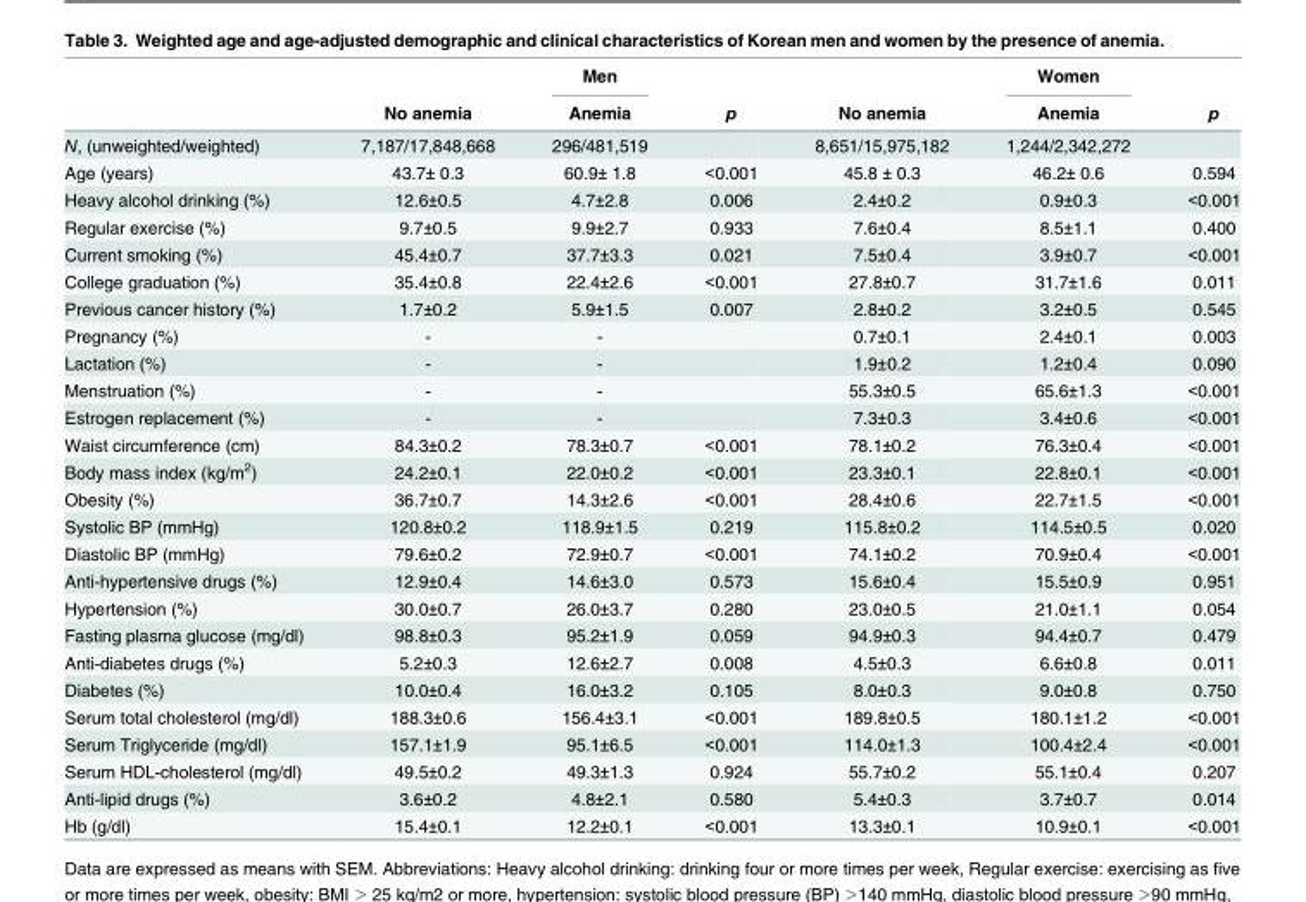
<table><thead><tr><td rowspan="2"></td><td rowspan="2">No anemia</td><td rowspan="2">Men Anemia</td><td rowspan="2">p</td><td rowspan="2">No anemia</td><td rowspan="2">Women Anemia</td><td rowspan="2">p</td></tr><tr></tr></thead><tbody><tr><td>N, (unweighted/weighted)</td><td>7,187/17,848,668</td><td>296/481,519</td><td></td><td>8,651/15,975,182</td><td>1,244/2,342,272</td><td></td></tr><tr><td>Age (years)</td><td>43.7± 0.3</td><td>60.9± 1.8</td><td>&lt;0.001</td><td>45.8 ± 0.3</td><td>46.2± 0.6</td><td>0.594</td></tr><tr><td>Heavy alcohol drinking (%)</td><td>12.6±0.5</td><td>4.7±2.8</td><td>0.006</td><td>2.4±0.2</td><td>0.9±0.3</td><td>&lt;0.001</td></tr><tr><td>Regular exercise (%)</td><td>9.7±0.5</td><td>9.9±2.7</td><td>0.933</td><td>7.6±0.4</td><td>8.5±1.1</td><td>0.400</td></tr><tr><td>Current smoking (%)</td><td>45.4±0.7</td><td>37.7±3.3</td><td>0.021</td><td>7.5±0.4</td><td>3.9±0.7</td><td>&lt;0.001</td></tr><tr><td>College graduation (%)</td><td>35.4±0.8</td><td>22.4±2.6</td><td>&lt;0.001</td><td>27.8±0.7</td><td>31.7±1.6</td><td>0.011</td></tr><tr><td>Previous cancer history (%)</td><td>1.7±0.2</td><td>5.9±1.5</td><td>0.007</td><td>2.8±0.2</td><td>3.2±0.5</td><td>0.545</td></tr><tr><td>Pregnancy (%)</td><td>-</td><td>-</td><td></td><td>0.7±0.1</td><td>2.4±0.1</td><td>0.003</td></tr><tr><td>Lactation (%)</td><td>-</td><td>-</td><td></td><td>1.9±0.2</td><td>1.2±0.4</td><td>0.090</td></tr><tr><td>Menstruation (%)</td><td>-</td><td>-</td><td></td><td>55.3±0.5</td><td>65.6±1.3</td><td>&lt;0.001</td></tr><tr><td>Estrogen replacement (%)</td><td>-</td><td>-</td><td></td><td>7.3±0.3</td><td>3.4±0.6</td><td>&lt;0.001</td></tr><tr><td>Waist circumference (cm)</td><td>84.3±0.2</td><td>78.3±0.7</td><td>&lt;0.001</td><td>78.1±0.2</td><td>76.3±0.4</td><td>&lt;0.001</td></tr><tr><td>Body mass index (kg/m<sup>2</sup>)</td><td>24.2±0.1</td><td>22.0±0.2</td><td>&lt;0.001</td><td>23.3±0.1</td><td>22.8±0.1</td><td>&lt;0.001</td></tr><tr><td>Obesity (%)</td><td>36.7±0.7</td><td>14.3±2.6</td><td>&lt;0.001</td><td>28.4±0.6</td><td>22.7±1.5</td><td>&lt;0.001</td></tr><tr><td>Systolic BP (mmHg)</td><td>120.8±0.2</td><td>118.9±1.5</td><td>0.219</td><td>115.8±0.2</td><td>114.5±0.5</td><td>0.020</td></tr><tr><td>Diastolic BP (mmHg)</td><td>79.6±0.2</td><td>72.9±0.7</td><td>&lt;0.001</td><td>74.1±0.2</td><td>70.9±0.4</td><td>&lt;0.001</td></tr><tr><td>Anti-hypertensive drugs (%)</td><td>12.9±0.4</td><td>14.6±3.0</td><td>0.573</td><td>15.6±0.4</td><td>15.5±0.9</td><td>0.951</td></tr><tr><td>Hypertension (%)</td><td>30.0±0.7</td><td>26.0±3.7</td><td>0.280</td><td>23.0±0.5</td><td>21.0±1.1</td><td>0.054</td></tr><tr><td>Fasting plasma glucose (mg/dl)</td><td>98.8±0.3</td><td>95.2±1.9</td><td>0.059</td><td>94.9±0.3</td><td>94.4±0.7</td><td>0.479</td></tr><tr><td>Anti-diabetes drugs (%)</td><td>5.2±0.3</td><td>12.6±2.7</td><td>0.008</td><td>4.5±0.3</td><td>6.6±0.8</td><td>0.011</td></tr><tr><td>Diabetes (%)</td><td>10.0±0.4</td><td>16.0±3.2</td><td>0.105</td><td>8.0±0.3</td><td>9.0±0.8</td><td>0.750</td></tr><tr><td>Serum total cholesterol (mg/dl)</td><td>188.3±0.6</td><td>156.4±3.1</td><td>&lt;0.001</td><td>189.8±0.5</td><td>180.1±1.2</td><td>&lt;0.001</td></tr><tr><td>Serum Triglyceride (mg/dl)</td><td>157.1±1.9</td><td>95.1±6.5</td><td>&lt;0.001</td><td>114.0±1.3</td><td>100.4±2.4</td><td>&lt;0.001</td></tr><tr><td>Serum HDL-cholesterol (mg/dl)</td><td>49.5±0.2</td><td>49.3±1.3</td><td>0.924</td><td>55.7±0.2</td><td>55.1±0.4</td><td>0.207</td></tr><tr><td>Anti-lipid drugs (%)</td><td>3.6±0.2</td><td>4.8±2.1</td><td>0.580</td><td>5.4±0.3</td><td>3.7±0.7</td><td>0.014</td></tr><tr><td>Hb (g/dl)</td><td>15.4±0.1</td><td>12.2±0.1</td><td>&lt;0.001</td><td>13.3±0.1</td><td>10.9±0.1</td><td>&lt;0.001</td></tr></tbody></table>